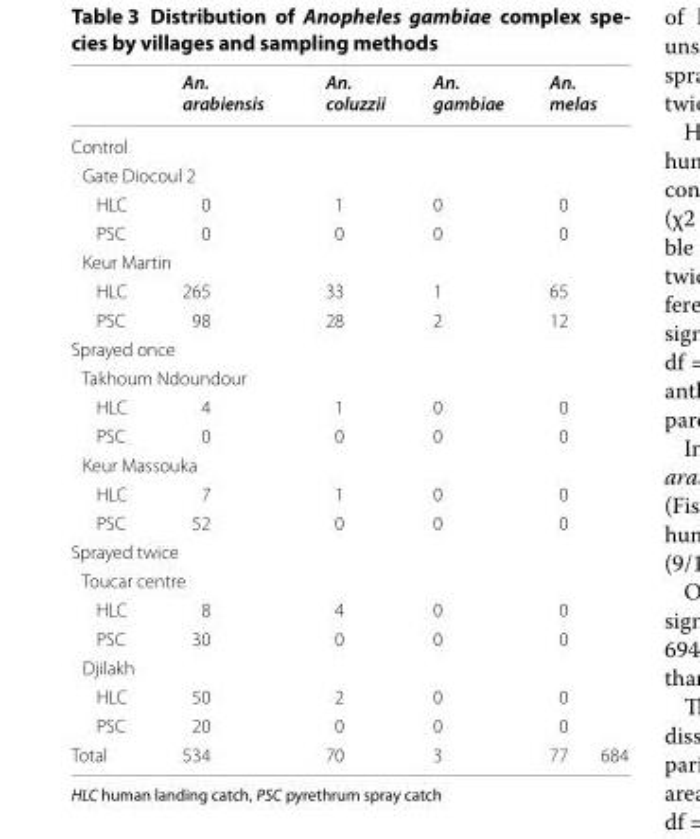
<table><thead><tr><td></td><td>An. arabiensis</td><td>An. coluzzii</td><td>An. gambiae</td><td>An. melas</td><td></td></tr></thead><tbody><tr><td colspan="6">Control</td></tr><tr><td colspan="6">Gate Diocoul 2</td></tr><tr><td>HLC</td><td>0</td><td>1</td><td>0</td><td>0</td><td></td></tr><tr><td>PSC</td><td>0</td><td>0</td><td>0</td><td>0</td><td></td></tr><tr><td colspan="6">Keur Martin</td></tr><tr><td>HLC</td><td>265</td><td>33</td><td>1</td><td>65</td><td></td></tr><tr><td>PSC</td><td>98</td><td>28</td><td>2</td><td>12</td><td></td></tr><tr><td colspan="6">Sprayed once</td></tr><tr><td colspan="6">Takhoum Ndoundour</td></tr><tr><td>HLC</td><td>4</td><td>1</td><td>0</td><td>0</td><td></td></tr><tr><td>PSC</td><td>0</td><td>0</td><td>0</td><td>0</td><td></td></tr><tr><td colspan="6">Keur Massouka</td></tr><tr><td>HLC</td><td>7</td><td>1</td><td>0</td><td>0</td><td></td></tr><tr><td>PSC</td><td>52</td><td>0</td><td>0</td><td>0</td><td></td></tr><tr><td colspan="6">Sprayed twice</td></tr><tr><td colspan="6">Toucar centre</td></tr><tr><td>HLC</td><td>8</td><td>4</td><td>0</td><td>0</td><td></td></tr><tr><td>PSC</td><td>30</td><td>0</td><td>0</td><td>0</td><td></td></tr><tr><td colspan="6">Djilakh</td></tr><tr><td>HLC</td><td>50</td><td>2</td><td>0</td><td>0</td><td></td></tr><tr><td>PSC</td><td>20</td><td>0</td><td>0</td><td>0</td><td></td></tr><tr><td>Total</td><td>534</td><td>70</td><td>3</td><td>77</td><td>684</td></tr></tbody></table>